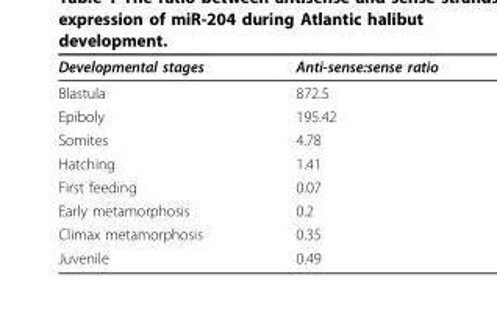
<table><thead><tr><td>Developmental stages</td><td>Anti-sense:sense ratio</td></tr></thead><tbody><tr><td>Blastula</td><td>872.5</td></tr><tr><td>Epiboly</td><td>195.42</td></tr><tr><td>Somites</td><td>4.78</td></tr><tr><td>Hatching</td><td>1.41</td></tr><tr><td>First feeding</td><td>0.07</td></tr><tr><td>Early metamorphosis</td><td>0.2</td></tr><tr><td>Climax metamorphosis</td><td>0.35</td></tr><tr><td>Juvenile</td><td>0.49</td></tr></tbody></table>